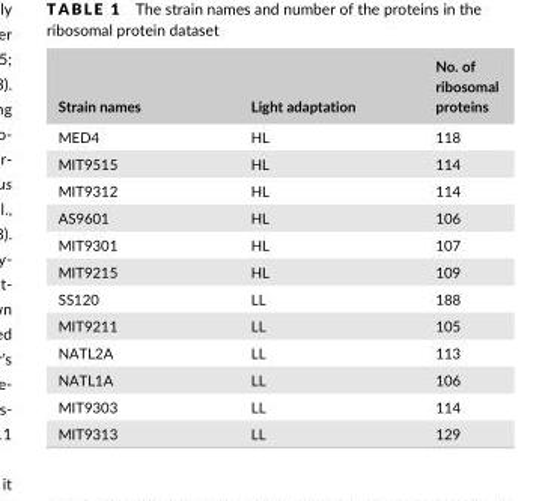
<table><thead><tr><td>Strain names</td><td>Light adaptation</td><td>No. of ribosomal proteins</td></tr></thead><tbody><tr><td>MED4</td><td>HL</td><td>118</td></tr><tr><td>MIT9515</td><td>HL</td><td>114</td></tr><tr><td>MIT9312</td><td>HL</td><td>114</td></tr><tr><td>AS9601</td><td>HL</td><td>106</td></tr><tr><td>MIT9301</td><td>HL</td><td>107</td></tr><tr><td>MIT9215</td><td>HL</td><td>109</td></tr><tr><td>SS120</td><td>LL</td><td>188</td></tr><tr><td>MIT9211</td><td>LL</td><td>105</td></tr><tr><td>NATL2A</td><td>LL</td><td>113</td></tr><tr><td>NATL1A</td><td>LL</td><td>106</td></tr><tr><td>MIT9303</td><td>LL</td><td>114</td></tr><tr><td>MIT9313</td><td>LL</td><td>129</td></tr></tbody></table>